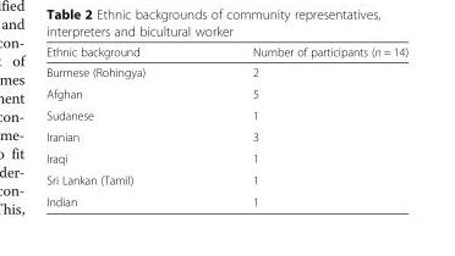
<table><thead><tr><td>Ethnic background</td><td>Number of participants (n = 14)</td></tr></thead><tbody><tr><td>Burmese (Rohingya)</td><td>2</td></tr><tr><td>Afghan</td><td>5</td></tr><tr><td>Sudanese</td><td>1</td></tr><tr><td>Iranian</td><td>3</td></tr><tr><td>Iraqi</td><td>1</td></tr><tr><td>Sri Lankan (Tamil)</td><td>1</td></tr><tr><td>Indian</td><td>1</td></tr></tbody></table>